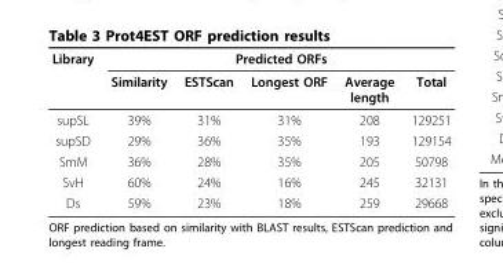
<table><thead><tr><td rowspan="2">Library</td><td colspan="5">Predicted ORFs</td></tr><tr><td>Similarity</td><td>ESTScan</td><td>Longest ORF</td><td>Average length</td><td>Total</td></tr></thead><tbody><tr><td>supSL</td><td>39%</td><td>31%</td><td>31%</td><td>208</td><td>129251</td></tr><tr><td>supSD</td><td>29%</td><td>36%</td><td>35%</td><td>193</td><td>129154</td></tr><tr><td>SmM</td><td>36%</td><td>28%</td><td>35%</td><td>205</td><td>50798</td></tr><tr><td>SvH</td><td>60%</td><td>24%</td><td>16%</td><td>245</td><td>32131</td></tr><tr><td>Ds</td><td>59%</td><td>23%</td><td>18%</td><td>259</td><td>29668</td></tr></tbody></table>